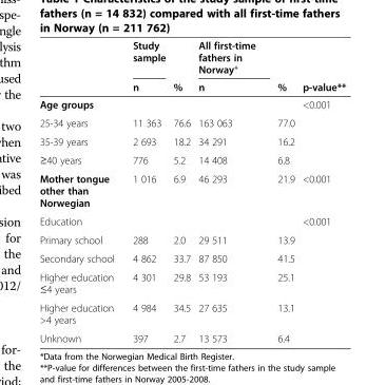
<table><thead><tr><td rowspan="2"></td><td rowspan="2">Study sample n</td><td rowspan="2">%</td><td rowspan="2">All first-time fathers in Norway* n</td><td rowspan="2">%</td><td rowspan="2">p-value**</td></tr><tr></tr></thead><tbody><tr><td>Age groups</td><td></td><td></td><td></td><td></td><td>&lt;0.001</td></tr><tr><td>25-34 years</td><td>11 363</td><td>76.6</td><td>163 063</td><td>77.0</td><td></td></tr><tr><td>35-39 years</td><td>2 693</td><td>18.2</td><td>34 291</td><td>16.2</td><td></td></tr><tr><td>≥40 years</td><td>776</td><td>5.2</td><td>14 408</td><td>6.8</td><td></td></tr><tr><td>Mother tongue other than Norwegian</td><td>1 016</td><td>6.9</td><td>46 293</td><td>21.9</td><td>&lt;0.001</td></tr><tr><td>Education</td><td></td><td></td><td></td><td></td><td>&lt;0.001</td></tr><tr><td>Primary school</td><td>288</td><td>2.0</td><td>29 511</td><td>13.9</td><td></td></tr><tr><td>Secondary school</td><td>4 862</td><td>33.7</td><td>87 850</td><td>41.5</td><td></td></tr><tr><td>Higher education ≤4 years</td><td>4 301</td><td>29.8</td><td>53 193</td><td>25.1</td><td></td></tr><tr><td>Higher education &gt;4 years</td><td>4 984</td><td>34.5</td><td>27 635</td><td>13.1</td><td></td></tr><tr><td>Unknown</td><td>397</td><td>2.7</td><td>13 573</td><td>6.4</td><td></td></tr></tbody></table>